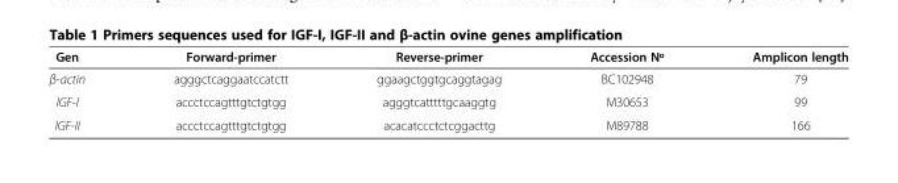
<table><thead><tr><td>Gen</td><td>Forward-primer</td><td>Reverse-primer</td><td>Accession Nº</td><td>Amplicon length</td></tr></thead><tbody><tr><td>β-actin</td><td>agggctcaggaatccatctt</td><td>ggaagctggtgcaggtagag</td><td>BC102948</td><td>79</td></tr><tr><td>IGF-I</td><td>accctccagtttgtctgtgg</td><td>agggtcatttttgcaaggtg</td><td>M30653</td><td>99</td></tr><tr><td>IGF-II</td><td>accctccagtttgtctgtgg</td><td>acacatccctctcggacttg</td><td>M89788</td><td>166</td></tr></tbody></table>